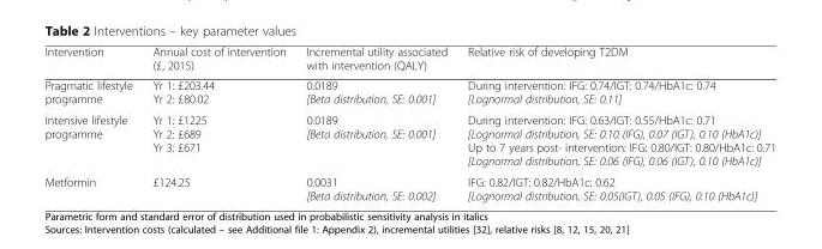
<table><thead><tr><td>Intervention</td><td>Annual cost of intervention (£, 2015)</td><td>Incremental utility associated with intervention (QALY)</td><td>Relative risk of developing T2DM</td></tr></thead><tbody><tr><td>Pragmatic lifestyle programme</td><td>Yr 1: £203.44 Yr 2: £80.02</td><td>0.0189 [Beta distribution, SE: 0.001]</td><td>During intervention: IFG: 0.74/IGT: 0.74/HbA1c: 0.74 [Lognormal distribution, SE: 0.11]</td></tr><tr><td>Intensive lifestyle programme</td><td>Yr 1: £1225 Yr 2: £689 Yr 3: £671</td><td>0.0189 [Beta distribution, SE: 0.001]</td><td>During intervention: IFG: 0.63/IGT: 0.55/HbA1c: 0.71 [Lognormal distribution, SE: 0.10 (IFG), 0.07 (IGT), 0.10 (HbA1c)] Up to 7 years post- intervention: IFG: 0.80/IGT: 0.80/HbA1c: 0.71 [Lognormal distribution, SE: 0.06 (IFG), 0.06 (IGT), 0.10 (HbA1c)]</td></tr><tr><td>Metformin</td><td>£124.25</td><td>0.0031 [Beta distribution, SE: 0.002]</td><td>IFG: 0.82/IGT: 0.82/HbA1c: 0.62 [Lognormal distribution, SE: 0.05(IGT), 0.05 (IFG), 0.10 (HbA1c)]</td></tr></tbody></table>